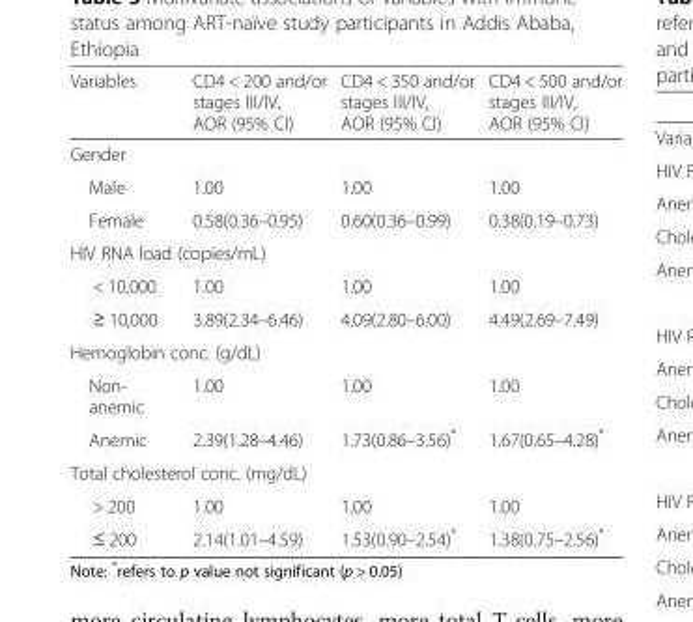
<table><thead><tr><td>Variables</td><td>CD4 &lt; 200 and/or stages III/IV, AOR (95% CI)</td><td>CD4 &lt; 350 and/or stages III/IV, AOR (95% CI)</td><td>CD4 &lt; 500 and/or stages III/IV, AOR (95% CI)</td></tr></thead><tbody><tr><td colspan="4">Gender</td></tr><tr><td>Male</td><td>1.00</td><td>1.00</td><td>1.00</td></tr><tr><td>Female</td><td>0.58(0.36–0.95)</td><td>0.60(0.36–0.99)</td><td>0.38(0.19–0.73)</td></tr><tr><td colspan="4">HIV RNA load (copies/mL)</td></tr><tr><td>&lt; 10,000</td><td>1.00</td><td>1.00</td><td>1.00</td></tr><tr><td>≥ 10,000</td><td>3.89(2.34–6.46)</td><td>4.09(2.80–6.00)</td><td>4.49(2.69–7.49)</td></tr><tr><td colspan="4">Hemoglobin conc. (g/dL)</td></tr><tr><td>Non- anemic</td><td>1.00</td><td>1.00</td><td>1.00</td></tr><tr><td>Anemic</td><td>2.39(1.28–4.46)</td><td>1.73(0.86–3.56)*</td><td>1.67(0.65–4.28)*</td></tr><tr><td colspan="4">Total cholesterol conc. (mg/dL)</td></tr><tr><td>&gt; 200</td><td>1.00</td><td>1.00</td><td>1.00</td></tr><tr><td>≤ 200</td><td>2.14(1.01–4.59)</td><td>1.53(0.90–2.54)*</td><td>1.38(0.75–2.56)*</td></tr></tbody></table>